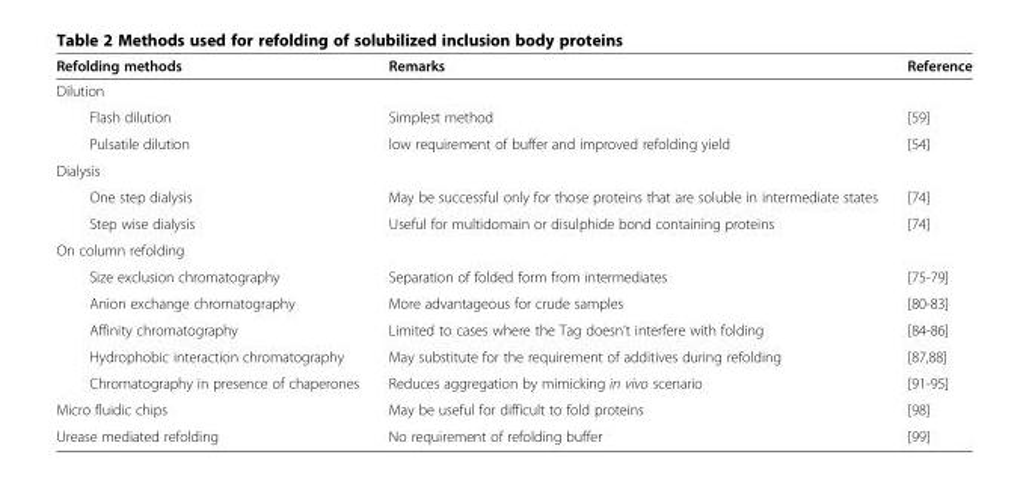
<table><thead><tr><td>Refolding methods</td><td>Remarks</td><td>Reference</td></tr></thead><tbody><tr><td colspan="3">Dilution</td></tr><tr><td>Flash dilution</td><td>Simplest method</td><td>[59]</td></tr><tr><td>Pulsatile dilution</td><td>low requirement of buffer and improved refolding yield</td><td>[54]</td></tr><tr><td colspan="3">Dialysis</td></tr><tr><td>One step dialysis</td><td>May be successful only for those proteins that are soluble in intermediate states</td><td>[74]</td></tr><tr><td>Step wise dialysis</td><td>Useful for multidomain or disulphide bond containing proteins</td><td>[74]</td></tr><tr><td colspan="3">On column refolding</td></tr><tr><td>Size exclusion chromatography</td><td>Separation of folded form from intermediates</td><td>[75-79]</td></tr><tr><td>Anion exchange chromatography</td><td>More advantageous for crude samples</td><td>[80-83]</td></tr><tr><td>Affinity chromatography</td><td>Limited to cases where the Tag doesn’t interfere with folding</td><td>[84-86]</td></tr><tr><td>Hydrophobic interaction chromatography</td><td>May substitute for the requirement of additives during refolding</td><td>[87,88]</td></tr><tr><td>Chromatography in presence of chaperones</td><td>Reduces aggregation by mimicking in vivo scenario</td><td>[91-95]</td></tr><tr><td>Micro fluidic chips</td><td>May be useful for difficult to fold proteins</td><td>[98]</td></tr><tr><td>Urease mediated refolding</td><td>No requirement of refolding buffer</td><td>[99]</td></tr></tbody></table>